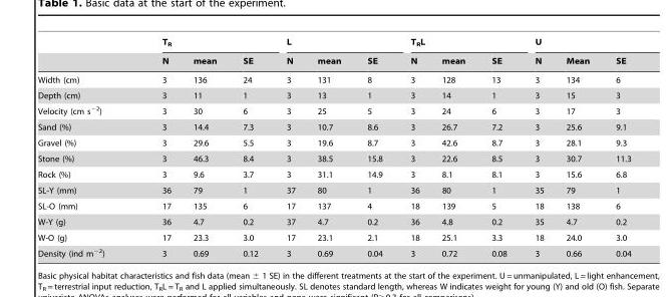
<table><thead><tr><td rowspan="2"></td><td colspan="3">T<sub>R</sub></td><td colspan="3">L</td><td colspan="3">T<sub>R</sub>L</td><td colspan="3">U</td></tr><tr><td>N</td><td>mean</td><td>SE</td><td>N</td><td>mean</td><td>SE</td><td>N</td><td>mean</td><td>SE</td><td>N</td><td>Mean</td><td>SE</td></tr></thead><tbody><tr><td>Width (cm)</td><td>3</td><td>136</td><td>24</td><td>3</td><td>131</td><td>8</td><td>3</td><td>128</td><td>13</td><td>3</td><td>134</td><td>6</td></tr><tr><td>Depth (cm)</td><td>3</td><td>11</td><td>1</td><td>3</td><td>13</td><td>1</td><td>3</td><td>14</td><td>1</td><td>3</td><td>15</td><td>3</td></tr><tr><td>Velocity (cm s<sup>−2</sup>)</td><td>3</td><td>30</td><td>6</td><td>3</td><td>25</td><td>5</td><td>3</td><td>24</td><td>6</td><td>3</td><td>17</td><td>3</td></tr><tr><td>Sand (%)</td><td>3</td><td>14.4</td><td>7.3</td><td>3</td><td>10.7</td><td>8.6</td><td>3</td><td>26.7</td><td>7.2</td><td>3</td><td>25.6</td><td>9.1</td></tr><tr><td>Gravel (%)</td><td>3</td><td>29.6</td><td>5.5</td><td>3</td><td>19.6</td><td>8.7</td><td>3</td><td>42.6</td><td>8.7</td><td>3</td><td>28.1</td><td>9.3</td></tr><tr><td>Stone (%)</td><td>3</td><td>46.3</td><td>8.4</td><td>3</td><td>38.5</td><td>15.8</td><td>3</td><td>22.6</td><td>8.5</td><td>3</td><td>30.7</td><td>11.3</td></tr><tr><td>Rock (%)</td><td>3</td><td>9.6</td><td>3.7</td><td>3</td><td>31.1</td><td>14.9</td><td>3</td><td>8.1</td><td>8.1</td><td>3</td><td>15.6</td><td>6.8</td></tr><tr><td>SL-Y (mm)</td><td>36</td><td>79</td><td>1</td><td>37</td><td>80</td><td>1</td><td>36</td><td>80</td><td>1</td><td>35</td><td>79</td><td>1</td></tr><tr><td>SL-O (mm)</td><td>17</td><td>135</td><td>6</td><td>17</td><td>137</td><td>4</td><td>18</td><td>139</td><td>5</td><td>18</td><td>138</td><td>6</td></tr><tr><td>W-Y (g)</td><td>36</td><td>4.7</td><td>0.2</td><td>37</td><td>4.7</td><td>0.2</td><td>36</td><td>4.8</td><td>0.2</td><td>35</td><td>4.7</td><td>0.2</td></tr><tr><td>W-O (g)</td><td>17</td><td>23.3</td><td>3.0</td><td>17</td><td>23.1</td><td>2.1</td><td>18</td><td>25.1</td><td>3.3</td><td>18</td><td>24.0</td><td>3.0</td></tr><tr><td>Density (ind m<sup>−2</sup>)</td><td>3</td><td>0.69</td><td>0.12</td><td>3</td><td>0.69</td><td>0.04</td><td>3</td><td>0.72</td><td>0.08</td><td>3</td><td>0.66</td><td>0.04</td></tr></tbody></table>